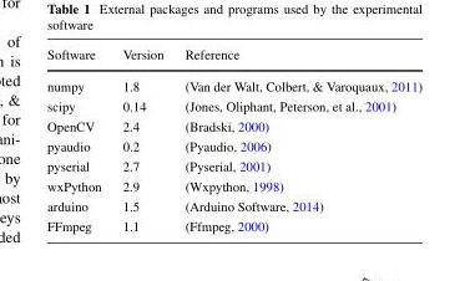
<table><thead><tr><td>Software</td><td>Version</td><td>Reference</td></tr></thead><tbody><tr><td>numpy</td><td>1.8</td><td>(Van der Walt, Colbert, &amp; Varoquaux, 2011)</td></tr><tr><td>scipy</td><td>0.14</td><td>(Jones, Oliphant, Peterson, et al., 2001)</td></tr><tr><td>OpenCV</td><td>2.4</td><td>(Bradski, 2000)</td></tr><tr><td>pyaudio</td><td>0.2</td><td>(Pyaudio, 2006)</td></tr><tr><td>pyserial</td><td>2.7</td><td>(Pyserial, 2001)</td></tr><tr><td>wxPython</td><td>2.9</td><td>(Wxpython, 1998)</td></tr><tr><td>arduino</td><td>1.5</td><td>(Arduino Software, 2014)</td></tr><tr><td>FFmpeg</td><td>1.1</td><td>(Ffmpeg, 2000)</td></tr></tbody></table>